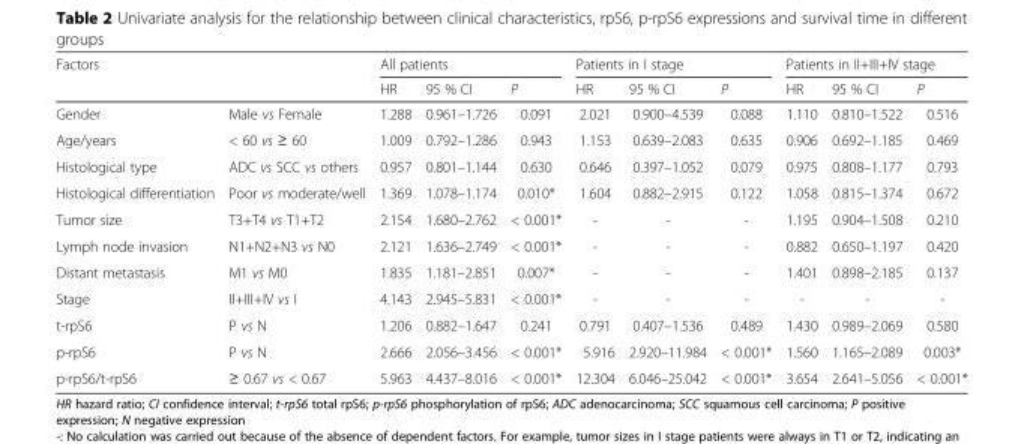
<table><thead><tr><td rowspan="2" colspan="2">Factors</td><td colspan="3">All patients</td><td colspan="3">Patients in I stage</td><td colspan="3">Patients in II+III+IV stage</td></tr><tr><td rowspan="2">HR 1.288</td><td rowspan="2">95 % CI 0.961–1.726</td><td rowspan="2">P 0.091</td><td rowspan="2">HR 2.021</td><td rowspan="2">95 % CI 0.900–4.539</td><td rowspan="2">P 0.088</td><td rowspan="2">HR 1.110</td><td rowspan="2">95 % CI 0.810–1.522</td><td rowspan="2">P 0.516</td></tr><tr><td>Gender</td><td>Male vs Female</td></tr></thead><tbody><tr><td>Age/years</td><td>&lt; 60 vs ≥ 60</td><td>1.009</td><td>0.792–1.286</td><td>0.943</td><td>1.153</td><td>0.639–2.083</td><td>0.635</td><td>0.906</td><td>0.692–1.185</td><td>0.469</td></tr><tr><td>Histological type</td><td>ADC vs SCC vs others</td><td>0.957</td><td>0.801–1.144</td><td>0.630</td><td>0.646</td><td>0.397–1.052</td><td>0.079</td><td>0.975</td><td>0.808–1.177</td><td>0.793</td></tr><tr><td>Histological differentiation</td><td>Poor vs moderate/well</td><td>1.369</td><td>1.078–1.174</td><td>0.010*</td><td>1.604</td><td>0.882–2.915</td><td>0.122</td><td>1.058</td><td>0.815–1.374</td><td>0.672</td></tr><tr><td>Tumor size</td><td>T3+T4 vs T1+T2</td><td>2.154</td><td>1.680–2.762</td><td>&lt; 0.001*</td><td>-</td><td>-</td><td>-</td><td>1.195</td><td>0.904–1.508</td><td>0.210</td></tr><tr><td>Lymph node invasion</td><td>N1+N2+N3 vs N0</td><td>2.121</td><td>1.636–2.749</td><td>&lt; 0.001*</td><td>-</td><td>-</td><td>-</td><td>0.882</td><td>0.650–1.197</td><td>0.420</td></tr><tr><td>Distant metastasis</td><td>M1 vs M0</td><td>1.835</td><td>1.181–2.851</td><td>0.007*</td><td>-</td><td>-</td><td>-</td><td>1.401</td><td>0.898–2.185</td><td>0.137</td></tr><tr><td>Stage</td><td>II+III+IV vs I</td><td>4.143</td><td>2.945–5.831</td><td>&lt; 0.001*</td><td>-</td><td>-</td><td>-</td><td>-</td><td>-</td><td>-</td></tr><tr><td>t-rpS6</td><td>P vs N</td><td>1.206</td><td>0.882–1.647</td><td>0.241</td><td>0.791</td><td>0.407–1.536</td><td>0.489</td><td>1.430</td><td>0.989–2.069</td><td>0.580</td></tr><tr><td>p-rpS6</td><td>P vs N</td><td>2.666</td><td>2.056–3.456</td><td>&lt; 0.001*</td><td>5.916</td><td>2.920–11.984</td><td>&lt; 0.001*</td><td>1.560</td><td>1.165–2.089</td><td>0.003*</td></tr><tr><td>p-rpS6/t-rpS6</td><td>≥ 0.67 vs &lt; 0.67</td><td>5.963</td><td>4.437–8.016</td><td>&lt; 0.001*</td><td>12.304</td><td>6.046–25.042</td><td>&lt; 0.001*</td><td>3.654</td><td>2.641–5.056</td><td>&lt; 0.001*</td></tr></tbody></table>